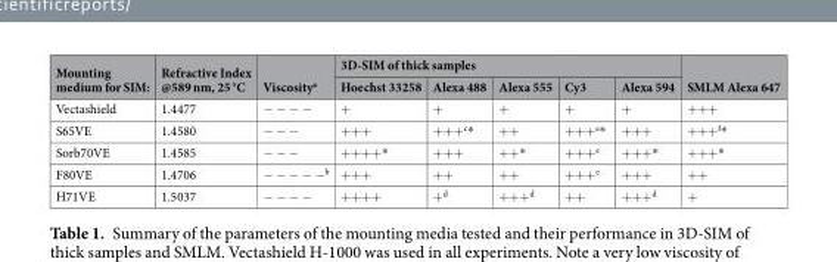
<table><thead><tr><td rowspan="2">Mounting medium for SIM:</td><td rowspan="2">Refractive Index @589 nm, 25 °C</td><td rowspan="2">Viscosity<sup>a</sup></td><td colspan="5">3D-SIM of thick samples</td><td rowspan="2">SMLM Alexa 647</td></tr><tr><td>Hoechst 33258</td><td>Alexa 488</td><td>Alexa 555</td><td>Cy3</td><td>Alexa 594</td></tr></thead><tbody><tr><td>Vectashield</td><td>1.4477</td><td>− − − −</td><td>+</td><td>+</td><td>+</td><td>+</td><td>+</td><td>+++</td></tr><tr><td>S65VE</td><td>1.4580</td><td>− − −</td><td>+++</td><td>+++<sup>c</sup>*</td><td>++</td><td>+++<sup>e</sup>*</td><td>+++</td><td>+++<sup>f</sup>*</td></tr><tr><td>Sorb70VE</td><td>1.4585</td><td>− − −</td><td>++++*</td><td>+++</td><td>++*</td><td>+++<sup>e</sup></td><td>+++*</td><td>+++*</td></tr><tr><td>F80VE</td><td>1.4706</td><td>− − − − −<sup>b</sup></td><td>+++</td><td>++</td><td>++</td><td>+++<sup>e</sup></td><td>+++</td><td>++</td></tr><tr><td>H71VE</td><td>1.5037</td><td>− − − −</td><td>++++</td><td>+<sup>d</sup></td><td>+++<sup>d</sup></td><td>++</td><td>+++<sup>d</sup></td><td>+</td></tr></tbody></table>